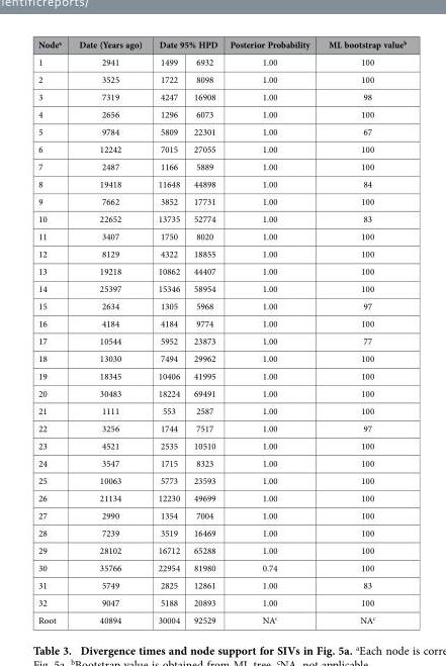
<table><thead><tr><td rowspan="2">Node<sup>a</sup> 1</td><td rowspan="2">Date (Years ago) 2941</td><td colspan="2">Date 95% HPD</td><td rowspan="2">Posterior Probability 1.00</td><td rowspan="2">ML bootstrap value<sup>b</sup> 100</td></tr><tr><td>1499</td><td>6932</td></tr></thead><tbody><tr><td>2</td><td>3525</td><td>1722</td><td>8098</td><td>1.00</td><td>100</td></tr><tr><td>3</td><td>7319</td><td>4247</td><td>16908</td><td>1.00</td><td>98</td></tr><tr><td>4</td><td>2656</td><td>1296</td><td>6073</td><td>1.00</td><td>100</td></tr><tr><td>5</td><td>9784</td><td>5809</td><td>22301</td><td>1.00</td><td>67</td></tr><tr><td>6</td><td>12242</td><td>7015</td><td>27055</td><td>1.00</td><td>100</td></tr><tr><td>7</td><td>2487</td><td>1166</td><td>5889</td><td>1.00</td><td>100</td></tr><tr><td>8</td><td>19418</td><td>11648</td><td>44898</td><td>1.00</td><td>84</td></tr><tr><td>9</td><td>7662</td><td>3852</td><td>17731</td><td>1.00</td><td>100</td></tr><tr><td>10</td><td>22652</td><td>13735</td><td>52774</td><td>1.00</td><td>83</td></tr><tr><td>11</td><td>3407</td><td>1750</td><td>8020</td><td>1.00</td><td>100</td></tr><tr><td>12</td><td>8129</td><td>4322</td><td>18855</td><td>1.00</td><td>100</td></tr><tr><td>13</td><td>19218</td><td>10862</td><td>44407</td><td>1.00</td><td>100</td></tr><tr><td>14</td><td>25397</td><td>15346</td><td>58954</td><td>1.00</td><td>100</td></tr><tr><td>15</td><td>2634</td><td>1305</td><td>5968</td><td>1.00</td><td>97</td></tr><tr><td>16</td><td>4184</td><td>4184</td><td>9774</td><td>1.00</td><td>100</td></tr><tr><td>17</td><td>10544</td><td>5952</td><td>23873</td><td>1.00</td><td>77</td></tr><tr><td>18</td><td>13030</td><td>7494</td><td>29962</td><td>1.00</td><td>100</td></tr><tr><td>19</td><td>18345</td><td>10406</td><td>41995</td><td>1.00</td><td>100</td></tr><tr><td>20</td><td>30483</td><td>18224</td><td>69491</td><td>1.00</td><td>100</td></tr><tr><td>21</td><td>1111</td><td>553</td><td>2587</td><td>1.00</td><td>100</td></tr><tr><td>22</td><td>3256</td><td>1744</td><td>7517</td><td>1.00</td><td>97</td></tr><tr><td>23</td><td>4521</td><td>2535</td><td>10510</td><td>1.00</td><td>100</td></tr><tr><td>24</td><td>3547</td><td>1715</td><td>8323</td><td>1.00</td><td>100</td></tr><tr><td>25</td><td>10063</td><td>5773</td><td>23593</td><td>1.00</td><td>100</td></tr><tr><td>26</td><td>21134</td><td>12230</td><td>49699</td><td>1.00</td><td>100</td></tr><tr><td>27</td><td>2990</td><td>1354</td><td>7004</td><td>1.00</td><td>100</td></tr><tr><td>28</td><td>7239</td><td>3519</td><td>16469</td><td>1.00</td><td>100</td></tr><tr><td>29</td><td>28102</td><td>16712</td><td>65288</td><td>1.00</td><td>100</td></tr><tr><td>30</td><td>35766</td><td>22954</td><td>81980</td><td>0.74</td><td>100</td></tr><tr><td>31</td><td>5749</td><td>2825</td><td>12861</td><td>1.00</td><td>83</td></tr><tr><td>32</td><td>9047</td><td>5188</td><td>20893</td><td>1.00</td><td>100</td></tr><tr><td>Root</td><td>40894</td><td>30004</td><td>92529</td><td>NA<sup>c</sup></td><td>NA<sup>c</sup></td></tr></tbody></table>